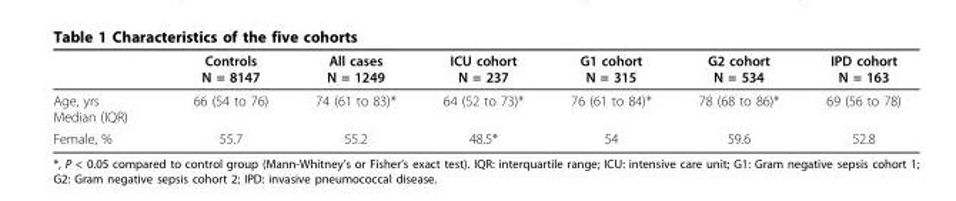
<table><thead><tr><td></td><td>Controls N = 8147</td><td>All cases N = 1249</td><td>ICU cohort N = 237</td><td>G1 cohort N = 315</td><td>G2 cohort N = 534</td><td>IPD cohort N = 163</td></tr></thead><tbody><tr><td>Age, yrs Median (IQR)</td><td>66 (54 to 76)</td><td>74 (61 to 83)*</td><td>64 (52 to 73)*</td><td>76 (61 to 84)*</td><td>78 (68 to 86)*</td><td>69 (56 to 78)</td></tr><tr><td>Female, %</td><td>55.7</td><td>55.2</td><td>48.5*</td><td>54</td><td>59.6</td><td>52.8</td></tr></tbody></table>